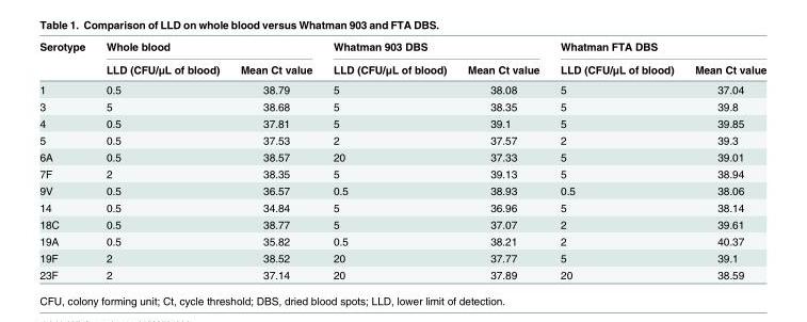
<table><thead><tr><td rowspan="2">Serotype</td><td colspan="2">Whole blood</td><td colspan="2">Whatman 903 DBS</td><td colspan="2">Whatman FTA DBS</td></tr><tr><td>LLD (CFU/μL of blood)</td><td>Mean Ct value</td><td>LLD (CFU/μL of blood)</td><td>Mean Ct value</td><td>LLD (CFU/μL of blood)</td><td>Mean Ct value</td></tr></thead><tbody><tr><td>1</td><td>0.5</td><td>38.79</td><td>5</td><td>38.08</td><td>5</td><td>37.04</td></tr><tr><td>3</td><td>5</td><td>38.68</td><td>5</td><td>38.35</td><td>5</td><td>39.8</td></tr><tr><td>4</td><td>0.5</td><td>37.81</td><td>5</td><td>39.1</td><td>5</td><td>39.85</td></tr><tr><td>5</td><td>0.5</td><td>37.53</td><td>2</td><td>37.57</td><td>2</td><td>39.3</td></tr><tr><td>6A</td><td>0.5</td><td>38.57</td><td>20</td><td>37.33</td><td>5</td><td>39.01</td></tr><tr><td>7F</td><td>2</td><td>38.35</td><td>5</td><td>39.13</td><td>5</td><td>38.94</td></tr><tr><td>9V</td><td>0.5</td><td>36.57</td><td>0.5</td><td>38.93</td><td>0.5</td><td>38.06</td></tr><tr><td>14</td><td>0.5</td><td>34.84</td><td>5</td><td>36.96</td><td>5</td><td>38.14</td></tr><tr><td>18C</td><td>0.5</td><td>38.77</td><td>5</td><td>37.07</td><td>2</td><td>39.61</td></tr><tr><td>19A</td><td>0.5</td><td>35.82</td><td>0.5</td><td>38.21</td><td>2</td><td>40.37</td></tr><tr><td>19F</td><td>2</td><td>38.52</td><td>20</td><td>37.77</td><td>5</td><td>39.1</td></tr><tr><td>23F</td><td>2</td><td>37.14</td><td>20</td><td>37.89</td><td>20</td><td>38.59</td></tr></tbody></table>